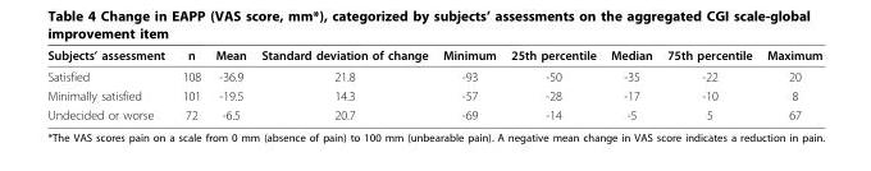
<table><thead><tr><td>Subjects’ assessment</td><td>n</td><td>Mean</td><td>Standard deviation of change</td><td>Minimum</td><td>25th percentile</td><td>Median</td><td>75th percentile</td><td>Maximum</td></tr></thead><tbody><tr><td>Satisfied</td><td>108</td><td>-36.9</td><td>21.8</td><td>-93</td><td>-50</td><td>-35</td><td>-22</td><td>20</td></tr><tr><td>Minimally satisfied</td><td>101</td><td>-19.5</td><td>14.3</td><td>-57</td><td>-28</td><td>-17</td><td>-10</td><td>8</td></tr><tr><td>Undecided or worse</td><td>72</td><td>-6.5</td><td>20.7</td><td>-69</td><td>-14</td><td>-5</td><td>5</td><td>67</td></tr></tbody></table>